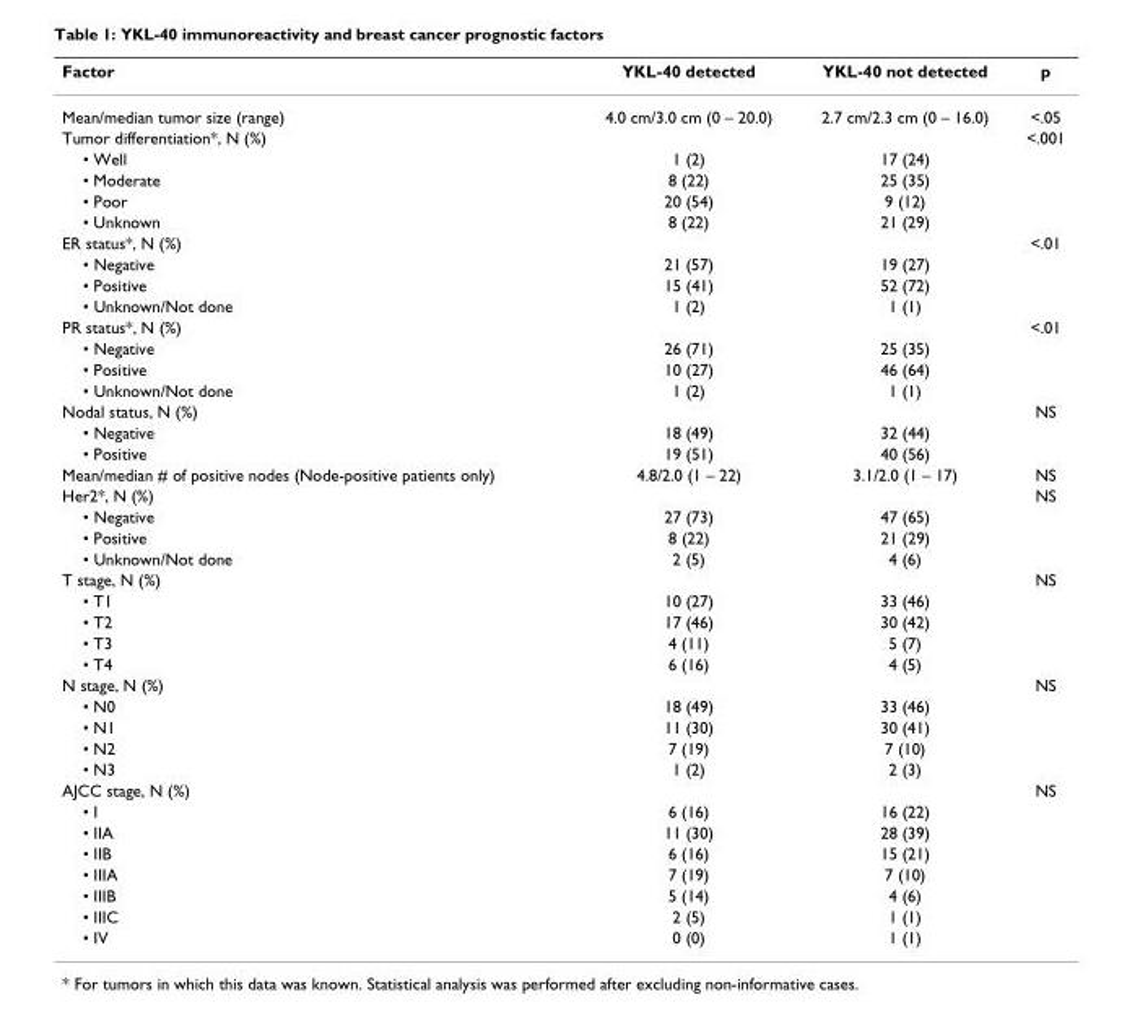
<table><thead><tr><td>Factor</td><td>YKL-40 detected</td><td>YKL-40 not detected</td><td>p</td></tr></thead><tbody><tr><td>Mean/median tumor size (range)</td><td>4.0 cm/3.0 cm (0 – 20.0)</td><td>2.7 cm/2.3 cm (0 – 16.0)</td><td>&lt;.05</td></tr><tr><td>Tumor differentiation*, N (%)</td><td></td><td></td><td>&lt;.001</td></tr><tr><td>• Well</td><td>1 (2)</td><td>17 (24)</td><td></td></tr><tr><td>• Moderate</td><td>8 (22)</td><td>25 (35)</td><td></td></tr><tr><td>• Poor</td><td>20 (54)</td><td>9 (12)</td><td></td></tr><tr><td>• Unknown</td><td>8 (22)</td><td>21 (29)</td><td></td></tr><tr><td>ER status*, N (%)</td><td></td><td></td><td>&lt;.01</td></tr><tr><td>• Negative</td><td>21 (57)</td><td>19 (27)</td><td></td></tr><tr><td>• Positive</td><td>15 (41)</td><td>52 (72)</td><td></td></tr><tr><td>• Unknown/Not done</td><td>1 (2)</td><td>1 (1)</td><td></td></tr><tr><td>PR status*, N (%)</td><td></td><td></td><td>&lt;.01</td></tr><tr><td>• Negative</td><td>26 (71)</td><td>25 (35)</td><td></td></tr><tr><td>• Positive</td><td>10 (27)</td><td>46 (64)</td><td></td></tr><tr><td>• Unknown/Not done</td><td>1 (2)</td><td>1 (1)</td><td></td></tr><tr><td>Nodal status, N (%)</td><td></td><td></td><td>NS</td></tr><tr><td>• Negative</td><td>18 (49)</td><td>32 (44)</td><td></td></tr><tr><td>• Positive</td><td>19 (51)</td><td>40 (56)</td><td></td></tr><tr><td>Mean/median # of positive nodes (Node-positive patients only)</td><td>4.8/2.0 (1 – 22)</td><td>3.1/2.0 (1 – 17)</td><td>NS</td></tr><tr><td>Her2*, N (%)</td><td></td><td></td><td>NS</td></tr><tr><td>• Negative</td><td>27 (73)</td><td>47 (65)</td><td></td></tr><tr><td>• Positive</td><td>8 (22)</td><td>21 (29)</td><td></td></tr><tr><td>• Unknown/Not done</td><td>2 (5)</td><td>4 (6)</td><td></td></tr><tr><td>T stage, N (%)</td><td></td><td></td><td>NS</td></tr><tr><td>• T1</td><td>10 (27)</td><td>33 (46)</td><td></td></tr><tr><td>• T2</td><td>17 (46)</td><td>30 (42)</td><td></td></tr><tr><td>• T3</td><td>4 (11)</td><td>5 (7)</td><td></td></tr><tr><td>• T4</td><td>6 (16)</td><td>4 (5)</td><td></td></tr><tr><td>N stage, N (%)</td><td></td><td></td><td>NS</td></tr><tr><td>• N0</td><td>18 (49)</td><td>33 (46)</td><td></td></tr><tr><td>• N1</td><td>11 (30)</td><td>30 (41)</td><td></td></tr><tr><td>• N2</td><td>7 (19)</td><td>7 (10)</td><td></td></tr><tr><td>• N3</td><td>1 (2)</td><td>2 (3)</td><td></td></tr><tr><td>AJCC stage, N (%)</td><td></td><td></td><td>NS</td></tr><tr><td>• I</td><td>6 (16)</td><td>16 (22)</td><td></td></tr><tr><td>• IIA</td><td>11 (30)</td><td>28 (39)</td><td></td></tr><tr><td>• IIB</td><td>6 (16)</td><td>15 (21)</td><td></td></tr><tr><td>• IIIA</td><td>7 (19)</td><td>7 (10)</td><td></td></tr><tr><td>• IIIB</td><td>5 (14)</td><td>4 (6)</td><td></td></tr><tr><td>• IIIC</td><td>2 (5)</td><td>1 (1)</td><td></td></tr><tr><td>• IV</td><td>0 (0)</td><td>1 (1)</td><td></td></tr></tbody></table>